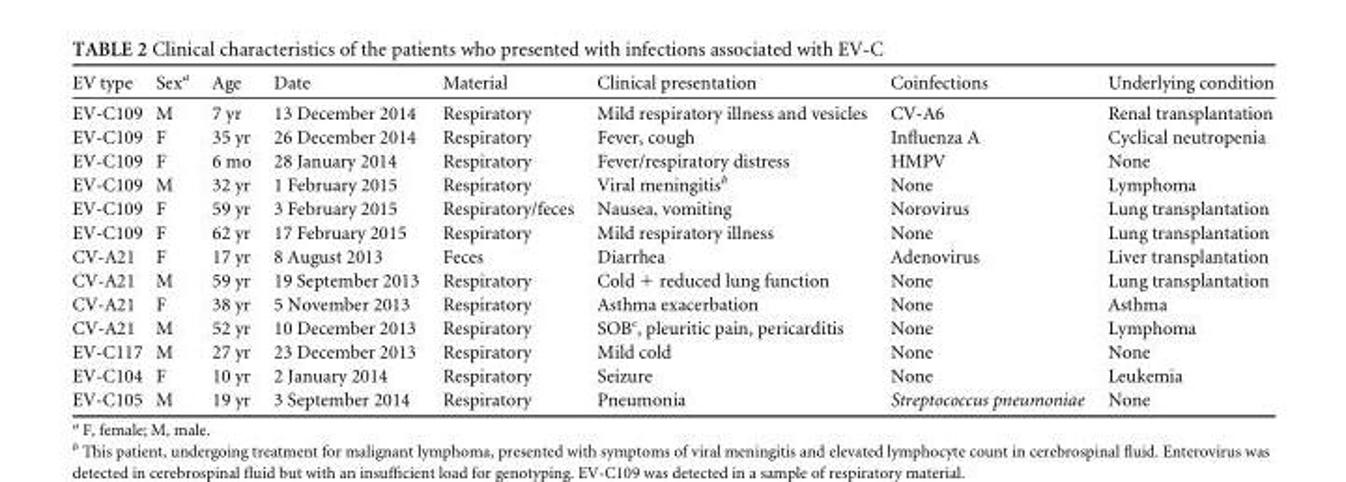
<table><thead><tr><td>EV type</td><td>Sex<sup>a</sup></td><td>Age</td><td>Date</td><td>Material</td><td>Clinical presentation</td><td>Coinfections</td><td>Underlying condition</td></tr></thead><tbody><tr><td>EV-C109</td><td>M</td><td>7 yr</td><td>13 December 2014</td><td>Respiratory</td><td>Mild respiratory illness and vesicles</td><td>CV-A6</td><td>Renal transplantation</td></tr><tr><td>EV-C109</td><td>F</td><td>35 yr</td><td>26 December 2014</td><td>Respiratory</td><td>Fever, cough</td><td>Influenza A</td><td>Cyclical neutropenia</td></tr><tr><td>EV-C109</td><td>F</td><td>6 mo</td><td>28 January 2014</td><td>Respiratory</td><td>Fever/respiratory distress</td><td>HMPV</td><td>None</td></tr><tr><td>EV-C109</td><td>M</td><td>32 yr</td><td>1 February 2015</td><td>Respiratory</td><td>Viral meningitis<sup>b</sup></td><td>None</td><td>Lymphoma</td></tr><tr><td>EV-C109</td><td>F</td><td>59 yr</td><td>3 February 2015</td><td>Respiratory/feces</td><td>Nausea, vomiting</td><td>Norovirus</td><td>Lung transplantation</td></tr><tr><td>EV-C109</td><td>F</td><td>62 yr</td><td>17 February 2015</td><td>Respiratory</td><td>Mild respiratory illness</td><td>None</td><td>Lung transplantation</td></tr><tr><td>CV-A21</td><td>F</td><td>17 yr</td><td>8 August 2013</td><td>Feces</td><td>Diarrhea</td><td>Adenovirus</td><td>Liver transplantation</td></tr><tr><td>CV-A21</td><td>M</td><td>59 yr</td><td>19 September 2013</td><td>Respiratory</td><td>Cold + reduced lung function</td><td>None</td><td>Lung transplantation</td></tr><tr><td>CV-A21</td><td>F</td><td>38 yr</td><td>5 November 2013</td><td>Respiratory</td><td>Asthma exacerbation</td><td>None</td><td>Asthma</td></tr><tr><td>CV-A21</td><td>M</td><td>52 yr</td><td>10 December 2013</td><td>Respiratory</td><td>SOB<sup>c</sup>, pleuritic pain, pericarditis</td><td>None</td><td>Lymphoma</td></tr><tr><td>EV-C117</td><td>M</td><td>27 yr</td><td>23 December 2013</td><td>Respiratory</td><td>Mild cold</td><td>None</td><td>None</td></tr><tr><td>EV-C104</td><td>F</td><td>10 yr</td><td>2 January 2014</td><td>Respiratory</td><td>Seizure</td><td>None</td><td>Leukemia</td></tr><tr><td>EV-C105</td><td>M</td><td>19 yr</td><td>3 September 2014</td><td>Respiratory</td><td>Pneumonia</td><td>Streptococcus pneumoniae</td><td>None</td></tr></tbody></table>